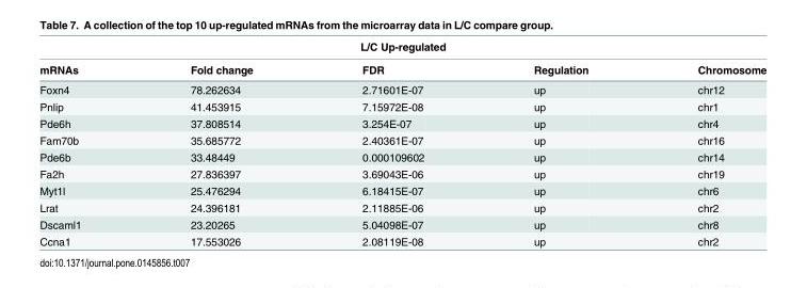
<table><thead><tr><td colspan="5">L/C Up-regulated</td></tr><tr><td>mRNAs</td><td>Fold change</td><td>FDR</td><td>Regulation</td><td>Chromosome</td></tr></thead><tbody><tr><td>Foxn4</td><td>78.262634</td><td>2.71601E-07</td><td>up</td><td>chr12</td></tr><tr><td>Pnlip</td><td>41.453915</td><td>7.15972E-08</td><td>up</td><td>chr1</td></tr><tr><td>Pde6h</td><td>37.808514</td><td>3.254E-07</td><td>up</td><td>chr4</td></tr><tr><td>Fam70b</td><td>35.685772</td><td>2.40361E-07</td><td>up</td><td>chr16</td></tr><tr><td>Pde6b</td><td>33.48449</td><td>0.000109602</td><td>up</td><td>chr14</td></tr><tr><td>Fa2h</td><td>27.836397</td><td>3.69043E-06</td><td>up</td><td>chr19</td></tr><tr><td>Myt1l</td><td>25.476294</td><td>6.18415E-07</td><td>up</td><td>chr6</td></tr><tr><td>Lrat</td><td>24.396181</td><td>2.11885E-06</td><td>up</td><td>chr2</td></tr><tr><td>Dscaml1</td><td>23.20265</td><td>5.04098E-07</td><td>up</td><td>chr8</td></tr><tr><td>Ccna1</td><td>17.553026</td><td>2.08119E-08</td><td>up</td><td>chr2</td></tr></tbody></table>